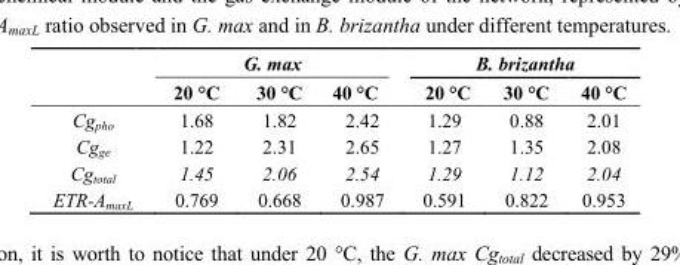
<table><thead><tr><td rowspan="2"></td><td colspan="3">G. max</td><td colspan="3">B. brizantha</td></tr><tr><td>20 °C</td><td>30 °C</td><td>40 °C</td><td>20 °C</td><td>30 °C</td><td>40 °C</td></tr></thead><tbody><tr><td>Cg<sub>pho</sub></td><td>1.68</td><td>1.82</td><td>2.42</td><td>1.29</td><td>0.88</td><td>2.01</td></tr><tr><td>Cg<sub>ge</sub></td><td>1.22</td><td>2.31</td><td>2.65</td><td>1.27</td><td>1.35</td><td>2.08</td></tr><tr><td>Cg<sub>total</sub></td><td>1.45</td><td>2.06</td><td>2.54</td><td>1.29</td><td>1.12</td><td>2.04</td></tr><tr><td>ETR-A<sub>maxL</sub></td><td>0.769</td><td>0.668</td><td>0.987</td><td>0.591</td><td>0.822</td><td>0.953</td></tr></tbody></table>